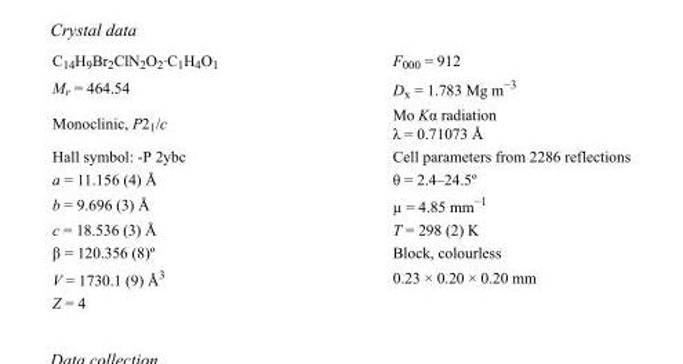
<table><tbody><tr><td>C<sub>14</sub>H<sub>9</sub>Br<sub>2</sub>ClN<sub>2</sub>O<sub>2</sub>·C<sub>1</sub>H<sub>4</sub>O<sub>1</sub></td><td>F<sub>000</sub> = 912</td></tr><tr><td>M<sub>r</sub> = 464.54</td><td>D<sub>x</sub> = 1.783 Mg m<sup>−3</sup></td></tr><tr><td>Monoclinic, P2<sub>1</sub>/c</td><td>Mo Kα radiation λ = 0.71073 Å</td></tr><tr><td>Hall symbol: -P 2ybc</td><td>Cell parameters from 2286 reflections</td></tr><tr><td>a = 11.156 (4) Å</td><td>θ = 2.4–24.5º</td></tr><tr><td>b = 9.696 (3) Å</td><td>µ = 4.85 mm<sup>−1</sup></td></tr><tr><td>c = 18.536 (3) Å</td><td>T = 298 (2) K</td></tr><tr><td>β = 120.356 (8)º</td><td>Block, colourless</td></tr><tr><td>V = 1730.1 (9) Å<sup>3</sup></td><td>0.23 × 0.20 × 0.20 mm</td></tr><tr><td>Z = 4</td><td></td></tr></tbody></table>